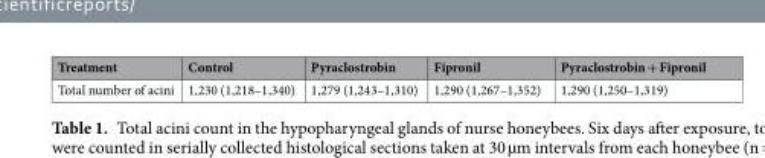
<table><thead><tr><td>Treatment</td><td>Control</td><td>Pyraclostrobin</td><td>Fipronil</td><td>Pyraclostrobin + Fipronil</td></tr></thead><tbody><tr><td>Total number of acini</td><td>1,230 (1,218–1,340)</td><td>1,279 (1,243–1,310)</td><td>1,290 (1,267–1,352)</td><td>1,290 (1,250–1,319)</td></tr></tbody></table>